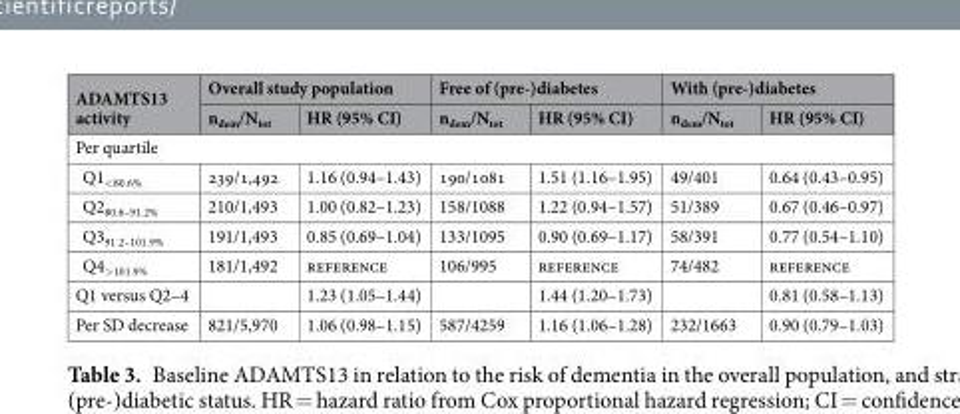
<table><thead><tr><td rowspan="2">ADAMTS13 activity</td><td colspan="2">Overall study population</td><td colspan="2">Free of (pre-)diabetes</td><td colspan="2">With (pre-)diabetes</td></tr><tr><td>n<sub>dem</sub>/N<sub>tot</sub></td><td>HR (95% CI)</td><td>n<sub>dem</sub>/N<sub>tot</sub></td><td>HR (95% CI)</td><td>n<sub>dem</sub>/N<sub>tot</sub></td><td>HR (95% CI)</td></tr></thead><tbody><tr><td colspan="7">Per quartile</td></tr><tr><td>Q1<sub>&lt;80.6%</sub></td><td>239/1,492</td><td>1.16 (0.94–1.43)</td><td>190/1081</td><td>1.51 (1.16–1.95)</td><td>49/401</td><td>0.64 (0.43–0.95)</td></tr><tr><td>Q2<sub>80.6–91.2%</sub></td><td>210/1,493</td><td>1.00 (0.82–1.23)</td><td>158/1088</td><td>1.22 (0.94–1.57)</td><td>51/389</td><td>0.67 (0.46–0.97)</td></tr><tr><td>Q3<sub>91.2–101.9%</sub></td><td>191/1,493</td><td>0.85 (0.69–1.04)</td><td>133/1095</td><td>0.90 (0.69–1.17)</td><td>58/391</td><td>0.77 (0.54–1.10)</td></tr><tr><td>Q4<sub>&gt;101.9%</sub></td><td>181/1,492</td><td>reference</td><td>106/995</td><td>reference</td><td>74/482</td><td>reference</td></tr><tr><td>Q1 versus Q2–4</td><td></td><td>1.23 (1.05–1.44)</td><td></td><td>1.44 (1.20–1.73)</td><td></td><td>0.81 (0.58–1.13)</td></tr><tr><td>Per SD decrease</td><td>821/5,970</td><td>1.06 (0.98–1.15)</td><td>587/4259</td><td>1.16 (1.06–1.28)</td><td>232/1663</td><td>0.90 (0.79–1.03)</td></tr></tbody></table>